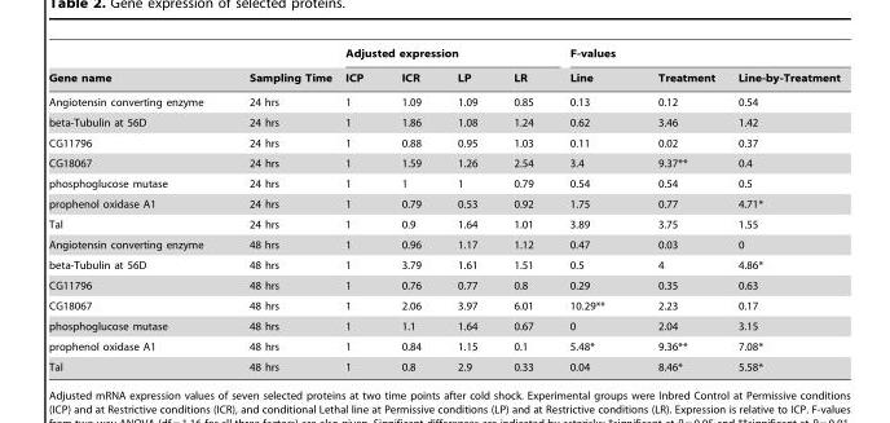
<table><thead><tr><td rowspan="2">Gene name</td><td rowspan="2">Sampling Time</td><td colspan="4">Adjusted expression</td><td colspan="3">F-values</td></tr><tr><td>ICP</td><td>ICR</td><td>LP</td><td>LR</td><td>Line</td><td>Treatment</td><td>Line-by-Treatment</td></tr></thead><tbody><tr><td>Angiotensin converting enzyme</td><td>24 hrs</td><td>1</td><td>1.09</td><td>1.09</td><td>0.85</td><td>0.13</td><td>0.12</td><td>0.54</td></tr><tr><td>beta-Tubulin at 56D</td><td>24 hrs</td><td>1</td><td>1.86</td><td>1.08</td><td>1.24</td><td>0.62</td><td>3.46</td><td>1.42</td></tr><tr><td>CG11796</td><td>24 hrs</td><td>1</td><td>0.88</td><td>0.95</td><td>1.03</td><td>0.11</td><td>0.02</td><td>0.37</td></tr><tr><td>CG18067</td><td>24 hrs</td><td>1</td><td>1.59</td><td>1.26</td><td>2.54</td><td>3.4</td><td>9.37**</td><td>0.4</td></tr><tr><td>phosphoglucose mutase</td><td>24 hrs</td><td>1</td><td>1</td><td>1</td><td>0.79</td><td>0.54</td><td>0.54</td><td>0.5</td></tr><tr><td>prophenol oxidase A1</td><td>24 hrs</td><td>1</td><td>0.79</td><td>0.53</td><td>0.92</td><td>1.75</td><td>0.77</td><td>4.71*</td></tr><tr><td>Tal</td><td>24 hrs</td><td>1</td><td>0.9</td><td>1.64</td><td>1.01</td><td>3.89</td><td>3.75</td><td>1.55</td></tr><tr><td>Angiotensin converting enzyme</td><td>48 hrs</td><td>1</td><td>0.96</td><td>1.17</td><td>1.12</td><td>0.47</td><td>0.03</td><td>0</td></tr><tr><td>beta-Tubulin at 56D</td><td>48 hrs</td><td>1</td><td>3.79</td><td>1.61</td><td>1.51</td><td>0.5</td><td>4</td><td>4.86*</td></tr><tr><td>CG11796</td><td>48 hrs</td><td>1</td><td>0.76</td><td>0.77</td><td>0.8</td><td>0.29</td><td>0.35</td><td>0.63</td></tr><tr><td>CG18067</td><td>48 hrs</td><td>1</td><td>2.06</td><td>3.97</td><td>6.01</td><td>10.29**</td><td>2.23</td><td>0.17</td></tr><tr><td>phosphoglucose mutase</td><td>48 hrs</td><td>1</td><td>1.1</td><td>1.64</td><td>0.67</td><td>0</td><td>2.04</td><td>3.15</td></tr><tr><td>prophenol oxidase A1</td><td>48 hrs</td><td>1</td><td>0.84</td><td>1.15</td><td>0.1</td><td>5.48*</td><td>9.36**</td><td>7.08*</td></tr><tr><td>Tal</td><td>48 hrs</td><td>1</td><td>0.8</td><td>2.9</td><td>0.33</td><td>0.04</td><td>8.46*</td><td>5.58*</td></tr></tbody></table>